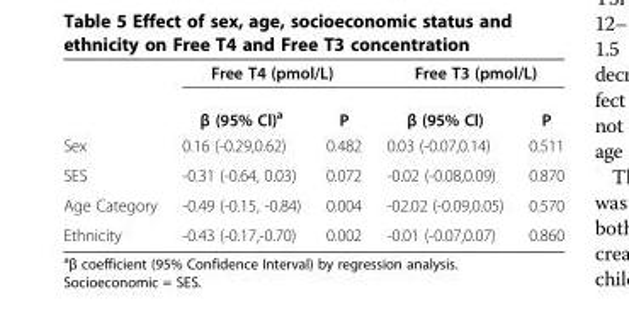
<table><thead><tr><td rowspan="2"></td><td colspan="2">Free T4 (pmol/L)</td><td colspan="2">Free T3 (pmol/L)</td></tr><tr><td>β (95% Cl)<sup>a</sup></td><td>P</td><td>β (95% Cl)</td><td>P</td></tr></thead><tbody><tr><td>Sex</td><td>0.16 (-0.29,0.62)</td><td>0.482</td><td>0.03 (-0.07,0.14)</td><td>0.511</td></tr><tr><td>SES</td><td>-0.31 (-0.64, 0.03)</td><td>0.072</td><td>-0.02 (-0.08,0.09)</td><td>0.870</td></tr><tr><td>Age Category</td><td>-0.49 (-0.15, -0.84)</td><td>0.004</td><td>-02.02 (-0.09,0.05)</td><td>0.570</td></tr><tr><td>Ethnicity</td><td>-0.43 (-0.17,-0.70)</td><td>0.002</td><td>-0.01 (-0.07,0.07)</td><td>0.860</td></tr></tbody></table>